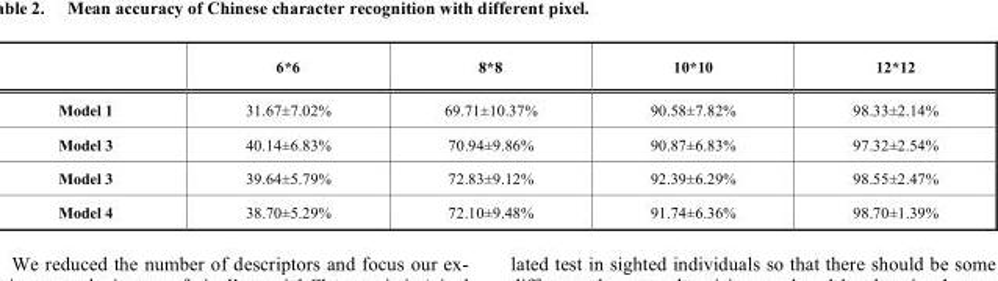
<table><thead><tr><td></td><td>6*6</td><td>8*8</td><td>10*10</td><td>12*12</td></tr></thead><tbody><tr><td>Model 1</td><td>31.67±7.02%</td><td>69.71±10.37%</td><td>90.58±7.82%</td><td>98.33±2.14%</td></tr><tr><td>Model 3</td><td>40.14±6.83%</td><td>70.94±9.86%</td><td>90.87±6.83%</td><td>97.32±2.54%</td></tr><tr><td>Model 3</td><td>39.64±5.79%</td><td>72.83±9.12%</td><td>92.39±6.29%</td><td>98.55±2.47%</td></tr><tr><td>Model 4</td><td>38.70±5.29%</td><td>72.10±9.48%</td><td>91.74±6.36%</td><td>98.70±1.39%</td></tr></tbody></table>